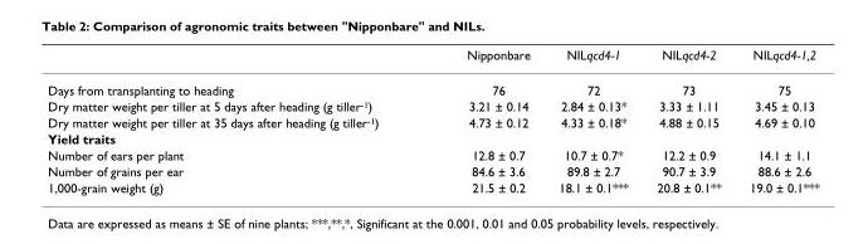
<table><thead><tr><td></td><td>Nipponbare</td><td>NILqcd4-1</td><td>NILqcd4-2</td><td>NILqcd4-1,2</td></tr></thead><tbody><tr><td>Days from transplanting to heading</td><td>76</td><td>72</td><td>73</td><td>75</td></tr><tr><td>Dry matter weight per tiller at 5 days after heading (g tiller<sup>-1</sup>)</td><td>3.21 ± 0.14</td><td>2.84 ± 0.13*</td><td>3.33 ± 1.11</td><td>3.45 ± 0.13</td></tr><tr><td>Dry matter weight per tiller at 35 days after heading (g tiller<sup>-1</sup>)</td><td>4.73 ± 0.12</td><td>4.33 ± 0.18*</td><td>4.88 ± 0.15</td><td>4.69 ± 0.10</td></tr><tr><td colspan="5">Yield traits</td></tr><tr><td>Number of ears per plant</td><td>12.8 ± 0.7</td><td>10.7 ± 0.7*</td><td>12.2 ± 0.9</td><td>14.1 ± 1.1</td></tr><tr><td>Number of grains per ear</td><td>84.6 ± 3.6</td><td>89.8 ± 2.7</td><td>90.7 ± 3.9</td><td>88.6 ± 2.6</td></tr><tr><td>1,000-grain weight (g)</td><td>21.5 ± 0.2</td><td>18.1 ± 0.1***</td><td>20.8 ± 0.1**</td><td>19.0 ± 0.1***</td></tr></tbody></table>